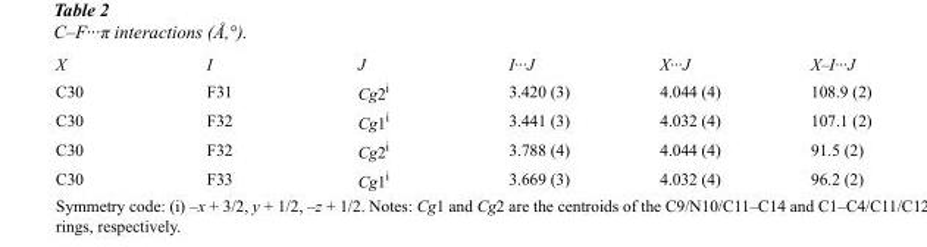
<table><tbody><tr><td>X</td><td>I</td><td>J</td><td>I···J</td><td>X···J</td><td>X–I···J</td></tr><tr><td>C30</td><td>F31</td><td>Cg2<sup>i</sup></td><td>3.420 (3)</td><td>4.044 (4)</td><td>108.9 (2)</td></tr><tr><td>C30</td><td>F32</td><td>Cg1<sup>i</sup></td><td>3.441 (3)</td><td>4.032 (4)</td><td>107.1 (2)</td></tr><tr><td>C30</td><td>F32</td><td>Cg2<sup>i</sup></td><td>3.788 (4)</td><td>4.044 (4)</td><td>91.5 (2)</td></tr><tr><td>C30</td><td>F33</td><td>Cg1<sup>i</sup></td><td>3.669 (3)</td><td>4.032 (4)</td><td>96.2 (2)</td></tr></tbody></table>